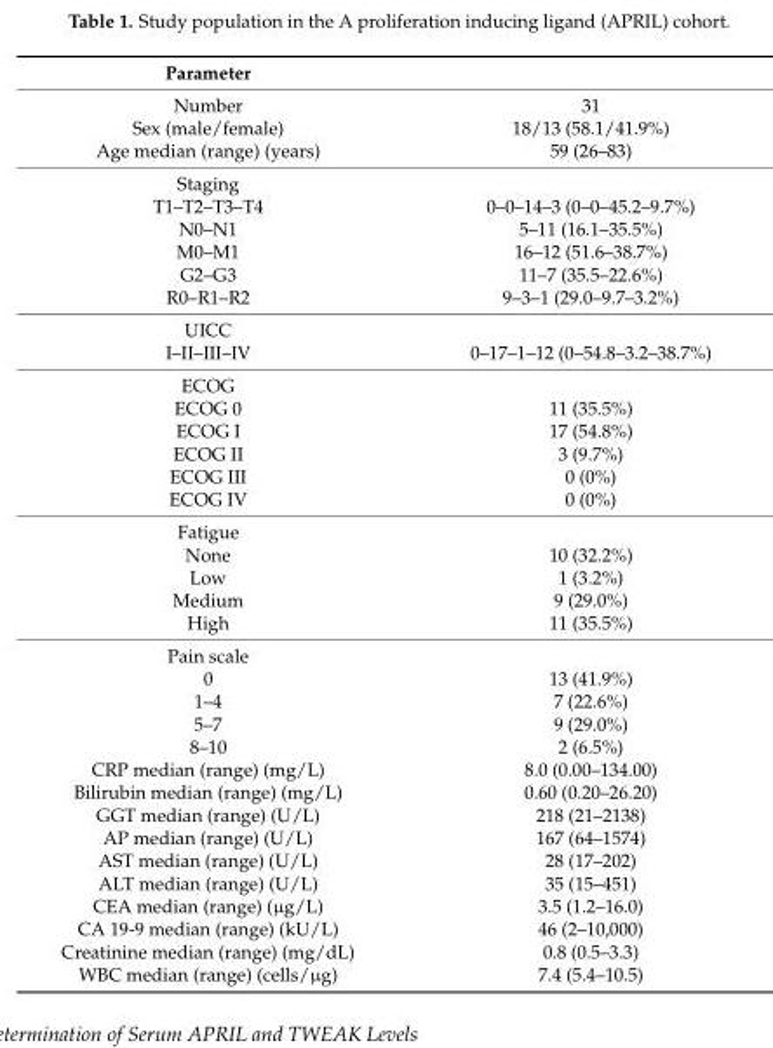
<table><thead><tr><td>Parameter</td><td></td></tr></thead><tbody><tr><td>Number</td><td>31</td></tr><tr><td>Sex (male/female)</td><td>18/13 (58.1/41.9%)</td></tr><tr><td>Age median (range) (years)</td><td>59 (26–83)</td></tr><tr><td colspan="2">Staging</td></tr><tr><td>T1–T2–T3–T4</td><td>0–0–14–3 (0–0–45.2–9.7%)</td></tr><tr><td>N0–N1</td><td>5–11 (16.1–35.5%)</td></tr><tr><td>M0–M1</td><td>16–12 (51.6–38.7%)</td></tr><tr><td>G2–G3</td><td>11–7 (35.5–22.6%)</td></tr><tr><td>R0–R1–R2</td><td>9–3–1 (29.0–9.7–3.2%)</td></tr><tr><td colspan="2">UICC</td></tr><tr><td>I–II–III–IV</td><td>0–17–1–12 (0–54.8–3.2–38.7%)</td></tr><tr><td colspan="2">ECOG</td></tr><tr><td>ECOG 0</td><td>11 (35.5%)</td></tr><tr><td>ECOG I</td><td>17 (54.8%)</td></tr><tr><td>ECOG II</td><td>3 (9.7%)</td></tr><tr><td>ECOG III</td><td>0 (0%)</td></tr><tr><td>ECOG IV</td><td>0 (0%)</td></tr><tr><td colspan="2">Fatigue</td></tr><tr><td>None</td><td>10 (32.2%)</td></tr><tr><td>Low</td><td>1 (3.2%)</td></tr><tr><td>Medium</td><td>9 (29.0%)</td></tr><tr><td>High</td><td>11 (35.5%)</td></tr><tr><td colspan="2">Pain scale</td></tr><tr><td>0</td><td>13 (41.9%)</td></tr><tr><td>1–4</td><td>7 (22.6%)</td></tr><tr><td>5–7</td><td>9 (29.0%)</td></tr><tr><td>8–10</td><td>2 (6.5%)</td></tr><tr><td>CRP median (range) (mg/L)</td><td>8.0 (0.00–134.00)</td></tr><tr><td>Bilirubin median (range) (mg/L)</td><td>0.60 (0.20–26.20)</td></tr><tr><td>GGT median (range) (U/L)</td><td>218 (21–2138)</td></tr><tr><td>AP median (range) (U/L)</td><td>167 (64–1574)</td></tr><tr><td>AST median (range) (U/L)</td><td>28 (17–202)</td></tr><tr><td>ALT median (range) (U/L)</td><td>35 (15–451)</td></tr><tr><td>CEA median (range) (µg/L)</td><td>3.5 (1.2–16.0)</td></tr><tr><td>CA 19-9 median (range) (kU/L)</td><td>46 (2–10,000)</td></tr><tr><td>Creatinine median (range) (mg/dL)</td><td>0.8 (0.5–3.3)</td></tr><tr><td>WBC median (range) (cells/µg)</td><td>7.4 (5.4–10.5)</td></tr></tbody></table>